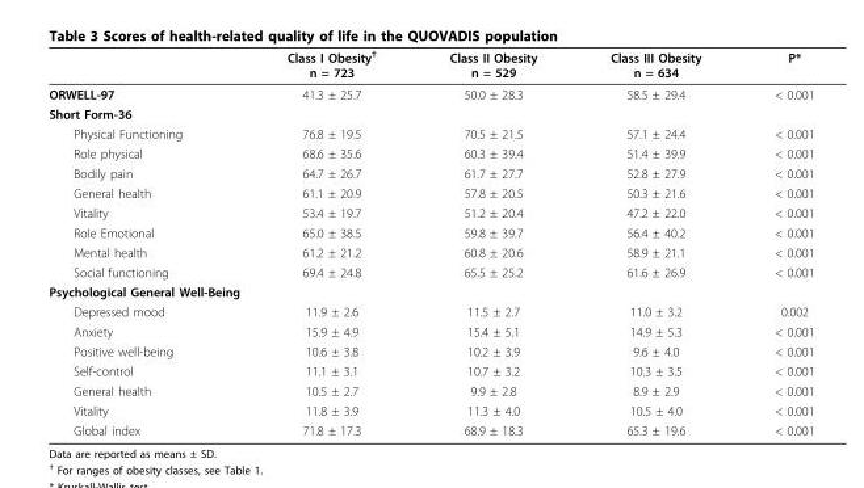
<table><thead><tr><td></td><td>Class I Obesity<sup>†</sup> n = 723</td><td>Class II Obesity n = 529</td><td>Class III Obesity n = 634</td><td>P*</td></tr></thead><tbody><tr><td>ORWELL-97</td><td>41.3 ± 25.7</td><td>50.0 ± 28.3</td><td>58.5 ± 29.4</td><td>&lt; 0.001</td></tr><tr><td colspan="5">Short Form-36</td></tr><tr><td>Physical Functioning</td><td>76.8 ± 19.5</td><td>70.5 ± 21.5</td><td>57.1 ± 24.4</td><td>&lt; 0.001</td></tr><tr><td>Role physical</td><td>68.6 ± 35.6</td><td>60.3 ± 39.4</td><td>51.4 ± 39.9</td><td>&lt; 0.001</td></tr><tr><td>Bodily pain</td><td>64.7 ± 26.7</td><td>61.7 ± 27.7</td><td>52.8 ± 27.9</td><td>&lt; 0.001</td></tr><tr><td>General health</td><td>61.1 ± 20.9</td><td>57.8 ± 20.5</td><td>50.3 ± 21.6</td><td>&lt; 0.001</td></tr><tr><td>Vitality</td><td>53.4 ± 19.7</td><td>51.2 ± 20.4</td><td>47.2 ± 22.0</td><td>&lt; 0.001</td></tr><tr><td>Role Emotional</td><td>65.0 ± 38.5</td><td>59.8 ± 39.7</td><td>56.4 ± 40.2</td><td>&lt; 0.001</td></tr><tr><td>Mental health</td><td>61.2 ± 21.2</td><td>60.8 ± 20.6</td><td>58.9 ± 21.1</td><td>&lt; 0.001</td></tr><tr><td>Social functioning</td><td>69.4 ± 24.8</td><td>65.5 ± 25.2</td><td>61.6 ± 26.9</td><td>&lt; 0.001</td></tr><tr><td colspan="5">Psychological General Well-Being</td></tr><tr><td>Depressed mood</td><td>11.9 ± 2.6</td><td>11.5 ± 2.7</td><td>11.0 ± 3.2</td><td>0.002</td></tr><tr><td>Anxiety</td><td>15.9 ± 4.9</td><td>15.4 ± 5.1</td><td>14.9 ± 5.3</td><td>&lt; 0.001</td></tr><tr><td>Positive well-being</td><td>10.6 ± 3.8</td><td>10.2 ± 3.9</td><td>9.6 ± 4.0</td><td>&lt; 0.001</td></tr><tr><td>Self-control</td><td>11.1 ± 3.1</td><td>10.7 ± 3.2</td><td>10.3 ± 3.5</td><td>&lt; 0.001</td></tr><tr><td>General health</td><td>10.5 ± 2.7</td><td>9.9 ± 2.8</td><td>8.9 ± 2.9</td><td>&lt; 0.001</td></tr><tr><td>Vitality</td><td>11.8 ± 3.9</td><td>11.3 ± 4.0</td><td>10.5 ± 4.0</td><td>&lt; 0.001</td></tr><tr><td>Global index</td><td>71.8 ± 17.3</td><td>68.9 ± 18.3</td><td>65.3 ± 19.6</td><td>&lt; 0.001</td></tr></tbody></table>